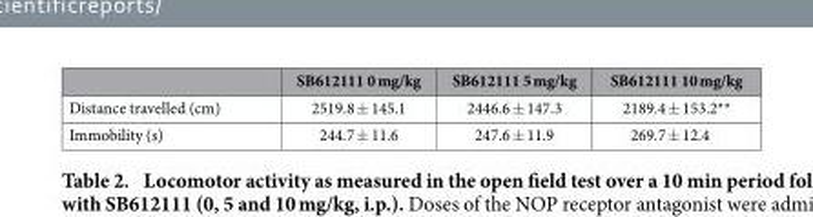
<table><thead><tr><td></td><td>SB612111 0 mg/kg</td><td>SB612111 5 mg/kg</td><td>SB612111 10 mg/kg</td></tr></thead><tbody><tr><td>Distance travelled (cm)</td><td>2519.8 ± 145.1</td><td>2446.6 ± 147.3</td><td>2189.4 ± 153.2**</td></tr><tr><td>Immobility (s)</td><td>244.7 ± 11.6</td><td>247.6 ± 11.9</td><td>269.7 ± 12.4</td></tr></tbody></table>